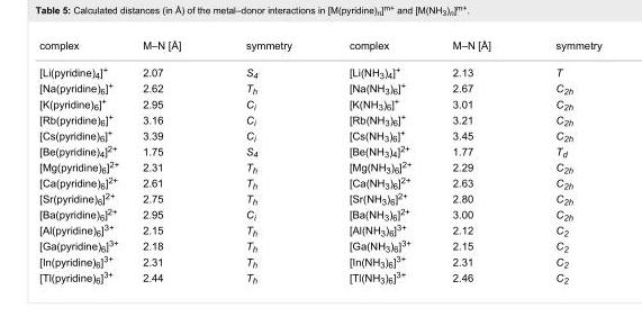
<table><tbody><tr><td>complex</td><td>M–N [Å]</td><td>symmetry</td><td>complex</td><td>M–N [Å]</td><td>symmetry</td></tr><tr><td>[Li(pyridine)<sub>4</sub>]<sup>+</sup></td><td>2.07</td><td>S<sub>4</sub></td><td>[Li(NH<sub>3</sub>)<sub>4</sub>]<sup>+</sup></td><td>2.13</td><td>T</td></tr><tr><td>[Na(pyridine)<sub>6</sub>]<sup>+</sup></td><td>2.62</td><td>T<sub>h</sub></td><td>[Na(NH<sub>3</sub>)<sub>6</sub>]<sup>+</sup></td><td>2.67</td><td>C<sub>2h</sub></td></tr><tr><td>[K(pyridine)<sub>6</sub>]<sup>+</sup></td><td>2.95</td><td>C<sub>i</sub></td><td>[K(NH<sub>3</sub>)<sub>6</sub>]<sup>+</sup></td><td>3.01</td><td>C<sub>2h</sub></td></tr><tr><td>[Rb(pyridine)<sub>6</sub>]<sup>+</sup></td><td>3.16</td><td>C<sub>i</sub></td><td>[Rb(NH<sub>3</sub>)<sub>6</sub>]<sup>+</sup></td><td>3.21</td><td>C<sub>2h</sub></td></tr><tr><td>[Cs(pyridine)<sub>6</sub>]<sup>+</sup></td><td>3.39</td><td>C<sub>i</sub></td><td>[Cs(NH<sub>3</sub>)<sub>6</sub>]<sup>+</sup></td><td>3.45</td><td>C<sub>2h</sub></td></tr><tr><td>[Be(pyridine)<sub>4</sub>]<sup>2+</sup></td><td>1.75</td><td>S<sub>4</sub></td><td>[Be(NH<sub>3</sub>)<sub>4</sub>]<sup>2+</sup></td><td>1.77</td><td>T<sub>d</sub></td></tr><tr><td>[Mg(pyridine)<sub>6</sub>]<sup>2+</sup></td><td>2.31</td><td>T<sub>h</sub></td><td>[Mg(NH<sub>3</sub>)<sub>6</sub>]<sup>2+</sup></td><td>2.29</td><td>C<sub>2h</sub></td></tr><tr><td>[Ca(pyridine)<sub>6</sub>]<sup>2+</sup></td><td>2.61</td><td>T<sub>h</sub></td><td>[Ca(NH<sub>3</sub>)<sub>6</sub>]<sup>2+</sup></td><td>2.63</td><td>C<sub>2h</sub></td></tr><tr><td>[Sr(pyridine)<sub>6</sub>]<sup>2+</sup></td><td>2.75</td><td>T<sub>h</sub></td><td>[Sr(NH<sub>3</sub>)<sub>6</sub>]<sup>2+</sup></td><td>2.80</td><td>C<sub>2h</sub></td></tr><tr><td>[Ba(pyridine)<sub>6</sub>]<sup>2+</sup></td><td>2.95</td><td>C<sub>i</sub></td><td>[Ba(NH<sub>3</sub>)<sub>6</sub>]<sup>2+</sup></td><td>3.00</td><td>C<sub>2h</sub></td></tr><tr><td>[Al(pyridine)<sub>6</sub>]<sup>3+</sup></td><td>2.15</td><td>T<sub>h</sub></td><td>[Al(NH<sub>3</sub>)<sub>6</sub>]<sup>3+</sup></td><td>2.12</td><td>C<sub>2</sub></td></tr><tr><td>[Ga(pyridine)<sub>6</sub>]<sup>3+</sup></td><td>2.18</td><td>T<sub>h</sub></td><td>[Ga(NH<sub>3</sub>)<sub>6</sub>]<sup>3+</sup></td><td>2.15</td><td>C<sub>2</sub></td></tr><tr><td>[In(pyridine)<sub>6</sub>]<sup>3+</sup></td><td>2.31</td><td>T<sub>h</sub></td><td>[In(NH<sub>3</sub>)<sub>6</sub>]<sup>3+</sup></td><td>2.31</td><td>C<sub>2</sub></td></tr><tr><td>[Tl(pyridine)<sub>6</sub>]<sup>3+</sup></td><td>2.44</td><td>T<sub>h</sub></td><td>[Tl(NH<sub>3</sub>)<sub>6</sub>]<sup>3+</sup></td><td>2.46</td><td>C<sub>2</sub></td></tr></tbody></table>